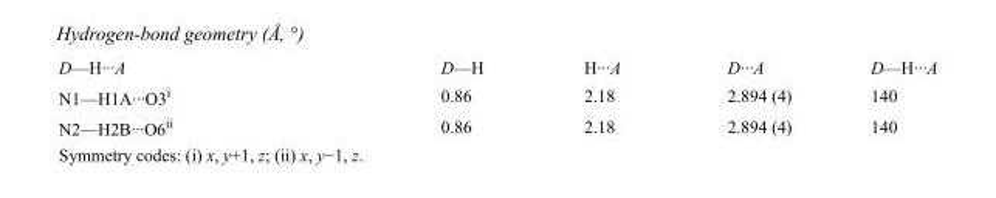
<table><tbody><tr><td>D—H···A</td><td>D—H</td><td>H···A</td><td>D···A</td><td>D—H···A</td></tr><tr><td>N1—H1A···O3<sup>i</sup></td><td>0.86</td><td>2.18</td><td>2.894 (4)</td><td>140</td></tr><tr><td>N2—H2B···O6<sup>ii</sup></td><td>0.86</td><td>2.18</td><td>2.894 (4)</td><td>140</td></tr></tbody></table>